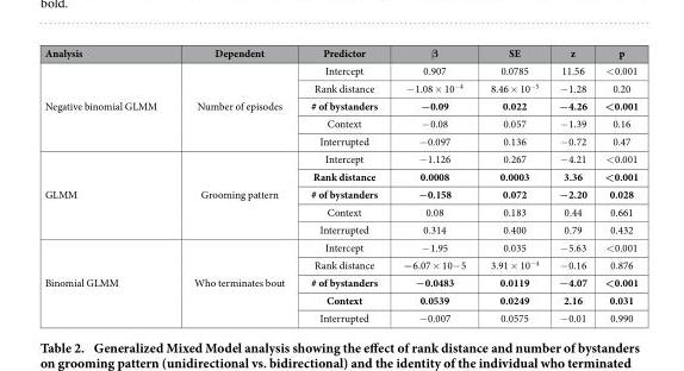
<table><thead><tr><td>Analysis</td><td>Dependent</td><td>Predictor</td><td>β</td><td>SE</td><td>z</td><td>p</td></tr></thead><tbody><tr><td rowspan="5">Negative binomial GLMM</td><td rowspan="5">Number of episodes</td><td>Intercept</td><td>0.907</td><td>0.0785</td><td>11.56</td><td>&lt; 0.001</td></tr><tr><td>Rank distance</td><td>− 1.08 × 10<sup>−4</sup></td><td>8.46 × 10<sup>−5</sup></td><td>− 1.28</td><td>0.20</td></tr><tr><td># of bystanders</td><td>−0.09</td><td>0.022</td><td>−4.26</td><td>&lt;0.001</td></tr><tr><td>Context</td><td>− 0.08</td><td>0.057</td><td>− 1.39</td><td>0.16</td></tr><tr><td>Interrupted</td><td>− 0.097</td><td>0.136</td><td>− 0.72</td><td>0.47</td></tr><tr><td rowspan="5">GLMM</td><td rowspan="5">Grooming pattern</td><td>Intercept</td><td>− 1.126</td><td>0.267</td><td>− 4.21</td><td>&lt; 0.001</td></tr><tr><td>Rank distance</td><td>0.0008</td><td>0.0003</td><td>3.36</td><td>&lt;0.001</td></tr><tr><td># of bystanders</td><td>−0.158</td><td>0.072</td><td>−2.20</td><td>0.028</td></tr><tr><td>Context</td><td>0.08</td><td>0.183</td><td>0.44</td><td>0.661</td></tr><tr><td>Interrupted</td><td>0.314</td><td>0.400</td><td>0.79</td><td>0.432</td></tr><tr><td rowspan="5">Binomial GLMM</td><td rowspan="5">Who terminates bout</td><td>Intercept</td><td>− 1.95</td><td>0.035</td><td>− 5.63</td><td>&lt; 0.001</td></tr><tr><td>Rank distance</td><td>−6.07 × 10− 5</td><td>3.91 × 10<sup>−4</sup></td><td>− 0.16</td><td>0.876</td></tr><tr><td># of bystanders</td><td>−0.0483</td><td>0.0119</td><td>−4.07</td><td>&lt;0.001</td></tr><tr><td>Context</td><td>0.0539</td><td>0.0249</td><td>2.16</td><td>0.031</td></tr><tr><td>Interrupted</td><td>− 0.007</td><td>0.0575</td><td>− 0.01</td><td>0.990</td></tr></tbody></table>